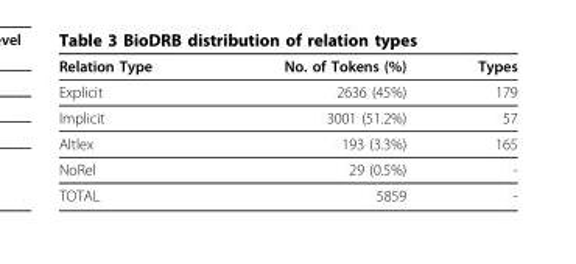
<table><thead><tr><td>Relation Type</td><td>No. of Tokens (%)</td><td>Types</td></tr></thead><tbody><tr><td>Explicit</td><td>2636 (45%)</td><td>179</td></tr><tr><td>Implicit</td><td>3001 (51.2%)</td><td>57</td></tr><tr><td>Altlex</td><td>193 (3.3%)</td><td>165</td></tr><tr><td>NoRel</td><td>29 (0.5%)</td><td>-</td></tr><tr><td>TOTAL</td><td>5859</td><td>-</td></tr></tbody></table>